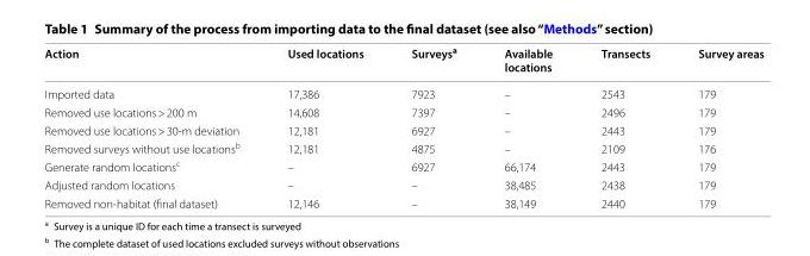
<table><thead><tr><td>Action</td><td>Used locations</td><td>Surveys<sup>a</sup></td><td>Available locations</td><td>Transects</td><td>Survey areas</td></tr></thead><tbody><tr><td>Imported data</td><td>17,386</td><td>7923</td><td>–</td><td>2543</td><td>179</td></tr><tr><td>Removed use locations &gt; 200 m</td><td>14,608</td><td>7397</td><td>–</td><td>2496</td><td>179</td></tr><tr><td>Removed use locations &gt; 30-m deviation</td><td>12,181</td><td>6927</td><td>–</td><td>2443</td><td>179</td></tr><tr><td>Removed surveys without use locations<sup>b</sup></td><td>12,181</td><td>4875</td><td>–</td><td>2109</td><td>176</td></tr><tr><td>Generate random locations<sup>c</sup></td><td>–</td><td>6927</td><td>66,174</td><td>2443</td><td>179</td></tr><tr><td>Adjusted random locations</td><td>–</td><td>–</td><td>38,485</td><td>2438</td><td>179</td></tr><tr><td>Removed non-habitat (final dataset)</td><td>12,146</td><td>–</td><td>38,149</td><td>2440</td><td>179</td></tr></tbody></table>